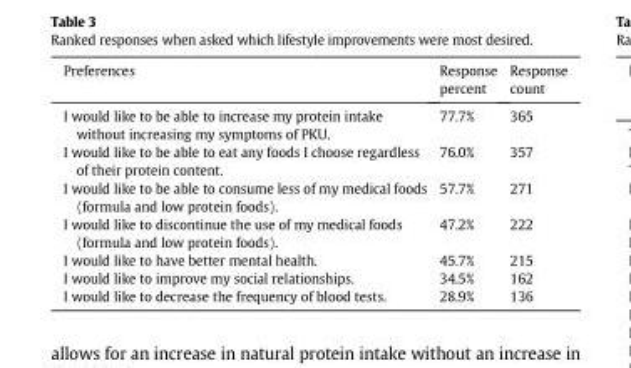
<table><thead><tr><td>Preferences</td><td>Response percent</td><td>Response count</td></tr></thead><tbody><tr><td>I would like to be able to increase my protein intake without increasing my symptoms of PKU.</td><td>77.7%</td><td>365</td></tr><tr><td>I would like to be able to eat any foods I choose regardless of their protein content.</td><td>76.0%</td><td>357</td></tr><tr><td>I would like to be able to consume less of my medical foods (formula and low protein foods).</td><td>57.7%</td><td>271</td></tr><tr><td>I would like to discontinue the use of my medical foods (formula and low protein foods).</td><td>47.2%</td><td>222</td></tr><tr><td>I would like to have better mental health.</td><td>45.7%</td><td>215</td></tr><tr><td>I would like to improve my social relationships.</td><td>34.5%</td><td>162</td></tr><tr><td>I would like to decrease the frequency of blood tests.</td><td>28.9%</td><td>136</td></tr></tbody></table>